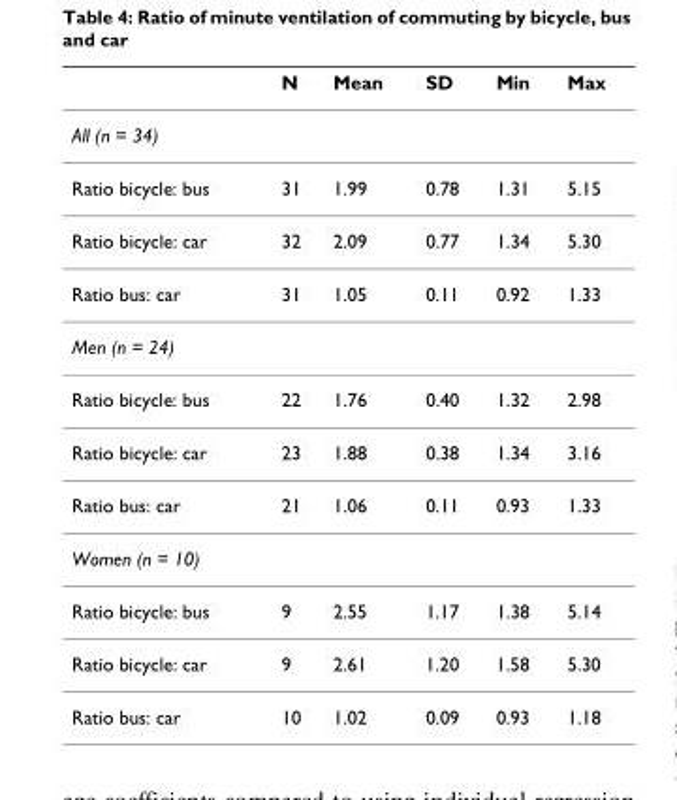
<table><thead><tr><td></td><td>N</td><td>Mean</td><td>SD</td><td>Min</td><td>Max</td></tr></thead><tbody><tr><td colspan="6">All (n = 34)</td></tr><tr><td>Ratio bicycle: bus</td><td>31</td><td>1.99</td><td>0.78</td><td>1.31</td><td>5.15</td></tr><tr><td>Ratio bicycle: car</td><td>32</td><td>2.09</td><td>0.77</td><td>1.34</td><td>5.30</td></tr><tr><td>Ratio bus: car</td><td>31</td><td>1.05</td><td>0.11</td><td>0.92</td><td>1.33</td></tr><tr><td colspan="6">Men (n = 24)</td></tr><tr><td>Ratio bicycle: bus</td><td>22</td><td>1.76</td><td>0.40</td><td>1.32</td><td>2.98</td></tr><tr><td>Ratio bicycle: car</td><td>23</td><td>1.88</td><td>0.38</td><td>1.34</td><td>3.16</td></tr><tr><td>Ratio bus: car</td><td>21</td><td>1.06</td><td>0.11</td><td>0.93</td><td>1.33</td></tr><tr><td colspan="6">Women (n = 10)</td></tr><tr><td>Ratio bicycle: bus</td><td>9</td><td>2.55</td><td>1.17</td><td>1.38</td><td>5.14</td></tr><tr><td>Ratio bicycle: car</td><td>9</td><td>2.61</td><td>1.20</td><td>1.58</td><td>5.30</td></tr><tr><td>Ratio bus: car</td><td>10</td><td>1.02</td><td>0.09</td><td>0.93</td><td>1.18</td></tr></tbody></table>